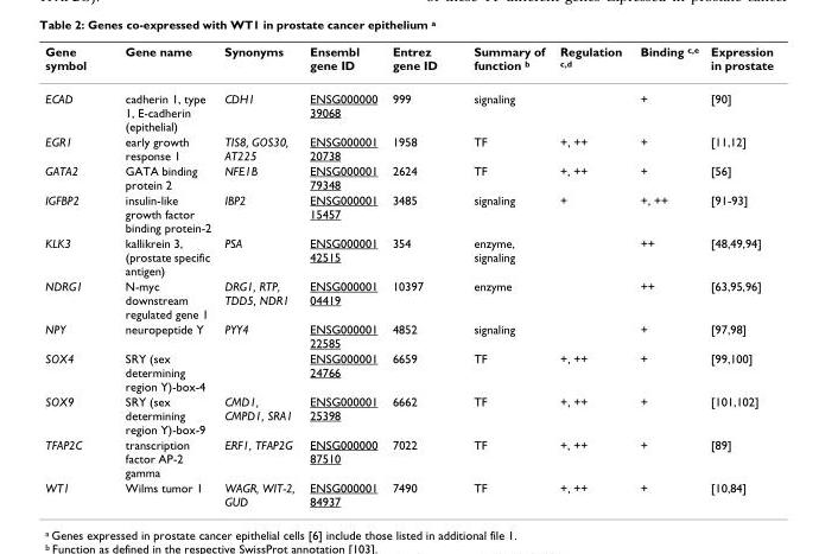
<table><thead><tr><td>Gene symbol</td><td>Gene name</td><td>Synonyms</td><td>Ensembl gene ID</td><td>Entrez gene ID</td><td>Summary of function <sup>b</sup></td><td>Regulation <sup>c,d</sup></td><td>Binding <sup>c,e</sup></td><td>Expression in prostate</td></tr></thead><tbody><tr><td>ECAD</td><td>cadherin 1, type 1, E-cadherin (epithelial)</td><td>CDH1</td><td>ENSG000000 39068</td><td>999</td><td>signaling</td><td></td><td>+</td><td>[90]</td></tr><tr><td>EGR1</td><td>early growth response 1</td><td>TIS8, GOS30, AT225</td><td>ENSG000001 20738</td><td>1958</td><td>TF</td><td>+, ++</td><td>+</td><td>[11,12]</td></tr><tr><td>GATA2</td><td>GATA binding protein 2</td><td>NFE1B</td><td>ENSG000001 79348</td><td>2624</td><td>TF</td><td>+, ++</td><td>+</td><td>[56]</td></tr><tr><td>IGFBP2</td><td>insulin-like growth factor binding protein-2</td><td>IBP2</td><td>ENSG000001 15457</td><td>3485</td><td>signaling</td><td>+</td><td>+, ++</td><td>[91-93]</td></tr><tr><td>KLK3</td><td>kallikrein 3, (prostate specific antigen)</td><td>PSA</td><td>ENSG000001 42515</td><td>354</td><td>enzyme, signaling</td><td></td><td>++</td><td>[48,49,94]</td></tr><tr><td>NDRG1</td><td>N-myc downstream regulated gene 1</td><td>DRG1, RTP, TDD5, NDR1</td><td>ENSG000001 04419</td><td>10397</td><td>enzyme</td><td></td><td>++</td><td>[63,95,96]</td></tr><tr><td>NPY</td><td>neuropeptide Y</td><td>PYY4</td><td>ENSG000001 22585</td><td>4852</td><td>signaling</td><td></td><td>+</td><td>[97,98]</td></tr><tr><td>SOX4</td><td>SRY (sex determining region Y)-box-4</td><td></td><td>ENSG000001 24766</td><td>6659</td><td>TF</td><td>+, ++</td><td>+</td><td>[99,100]</td></tr><tr><td>SOX9</td><td>SRY (sex determining region Y)-box-9</td><td>CMD1, CMPD1, SRA1</td><td>ENSG000001 25398</td><td>6662</td><td>TF</td><td>+, ++</td><td>+</td><td>[101,102]</td></tr><tr><td>TFAP2C</td><td>transcription factor AP-2 gamma</td><td>ERF1, TFAP2G</td><td>ENSG000000 87510</td><td>7022</td><td>TF</td><td>+, ++</td><td>+</td><td>[89]</td></tr><tr><td>WT1</td><td>Wilms tumor 1</td><td>WAGR, WIT-2, GUD</td><td>ENSG000001 84937</td><td>7490</td><td>TF</td><td>+, ++</td><td>+</td><td>[10,84]</td></tr></tbody></table>